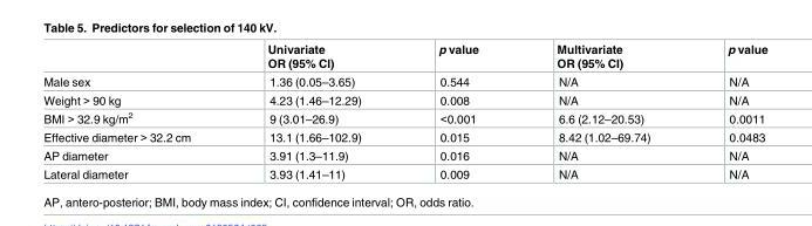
<table><thead><tr><td></td><td>Univariate OR (95% CI)</td><td>p value</td><td>Multivariate OR (95% CI)</td><td>p value</td></tr></thead><tbody><tr><td>Male sex</td><td>1.36 (0.05–3.65)</td><td>0.544</td><td>N/A</td><td>N/A</td></tr><tr><td>Weight &gt; 90 kg</td><td>4.23 (1.46–12.29)</td><td>0.008</td><td>N/A</td><td>N/A</td></tr><tr><td>BMI &gt; 32.9 kg/m<sup>2</sup></td><td>9 (3.01–26.9)</td><td>&lt;0.001</td><td>6.6 (2.12–20.53)</td><td>0.0011</td></tr><tr><td>Effective diameter &gt; 32.2 cm</td><td>13.1 (1.66–102.9)</td><td>0.015</td><td>8.42 (1.02–69.74)</td><td>0.0483</td></tr><tr><td>AP diameter</td><td>3.91 (1.3–11.9)</td><td>0.016</td><td>N/A</td><td>N/A</td></tr><tr><td>Lateral diameter</td><td>3.93 (1.41–11)</td><td>0.009</td><td>N/A</td><td>N/A</td></tr></tbody></table>